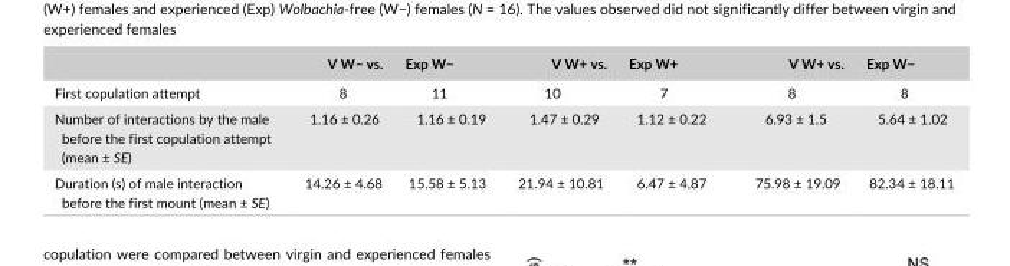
<table><thead><tr><td colspan="2">V W− vs.</td><td rowspan="2">Exp W− 11</td><td rowspan="2">V W+ vs. 10</td><td rowspan="2">Exp W+ 7</td><td rowspan="2">V W+ vs. 8</td><td rowspan="2">Exp W− 8</td></tr><tr><td>First copulation attempt</td><td>8</td></tr></thead><tbody><tr><td>Number of interactions by the male before the first copulation attempt (mean ± SE)</td><td>1.16 ± 0.26</td><td>1.16 ± 0.19</td><td>1.47 ± 0.29</td><td>1.12 ± 0.22</td><td>6.93 ± 1.5</td><td>5.64 ± 1.02</td></tr><tr><td>Duration (s) of male interaction before the first mount (mean ± SE)</td><td>14.26 ± 4.68</td><td>15.58 ± 5.13</td><td>21.94 ± 10.81</td><td>6.47 ± 4.87</td><td>75.98 ± 19.09</td><td>82.34 ± 18.11</td></tr></tbody></table>